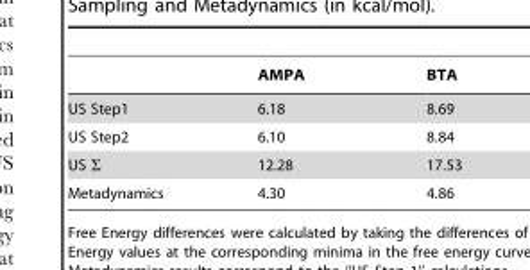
<table><thead><tr><td></td><td>AMPA</td><td>BTA</td></tr></thead><tbody><tr><td>US Step1</td><td>6.18</td><td>8.69</td></tr><tr><td>US Step2</td><td>6.10</td><td>8.84</td></tr><tr><td>US Σ</td><td>12.28</td><td>17.53</td></tr><tr><td>Metadynamics</td><td>4.30</td><td>4.86</td></tr></tbody></table>